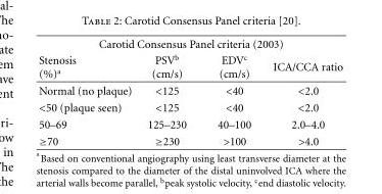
<table><thead><tr><td colspan="4">Carotid Consensus Panel criteria (2003)</td></tr><tr><td>Stenosis (%)<sup>a</sup></td><td>PSV<sup>b</sup> (cm/s)</td><td>EDV<sup>c</sup> (cm/s)</td><td>ICA/CCA ratio</td></tr></thead><tbody><tr><td>Normal (no plaque)</td><td>&lt;125</td><td>&lt;40</td><td>&lt;2.0</td></tr><tr><td>&lt;50 (plaque seen)</td><td>&lt;125</td><td>&lt;40</td><td>&lt;2.0</td></tr><tr><td>50–69</td><td>125–230</td><td>40–100</td><td>2.0–4.0</td></tr><tr><td>≥70</td><td>≥230</td><td>&gt;100</td><td>&gt;4.0</td></tr></tbody></table>